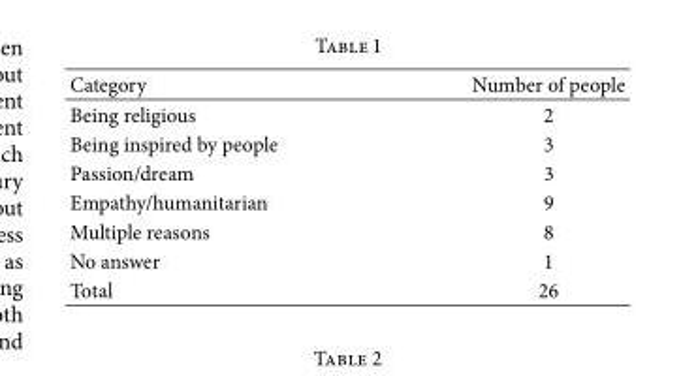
<table><thead><tr><td>Category</td><td>Number of people</td></tr></thead><tbody><tr><td>Being religious</td><td>2</td></tr><tr><td>Being inspired by people</td><td>3</td></tr><tr><td>Passion/dream</td><td>3</td></tr><tr><td>Empathy/humanitarian</td><td>9</td></tr><tr><td>Multiple reasons</td><td>8</td></tr><tr><td>No answer</td><td>1</td></tr><tr><td>Total</td><td>26</td></tr></tbody></table>